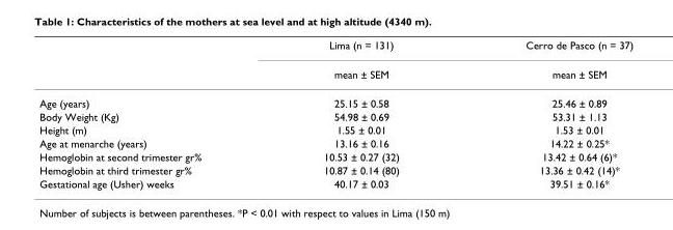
<table><thead><tr><td rowspan="2"></td><td rowspan="2">Lima (n = 131) mean ± SEM</td><td rowspan="2">Cerro de Pasco (n = 37) mean ± SEM</td></tr><tr></tr></thead><tbody><tr><td>Age (years)</td><td>25.15 ± 0.58</td><td>25.46 ± 0.89</td></tr><tr><td>Body Weight (Kg)</td><td>54.98 ± 0.69</td><td>53.31 ± 1.13</td></tr><tr><td>Height (m)</td><td>1.55 ± 0.01</td><td>1.53 ± 0.01</td></tr><tr><td>Age at menarche (years)</td><td>13.16 ± 0.16</td><td>14.22 ± 0.25*</td></tr><tr><td>Hemoglobin at second trimester gr%</td><td>10.53 ± 0.27 (32)</td><td>13.42 ± 0.64 (6)*</td></tr><tr><td>Hemoglobin at third trimester gr%</td><td>10.87 ± 0.14 (80)</td><td>13.36 ± 0.42 (14)*</td></tr><tr><td>Gestational age (Usher) weeks</td><td>40.17 ± 0.03</td><td>39.51 ± 0.16*</td></tr></tbody></table>